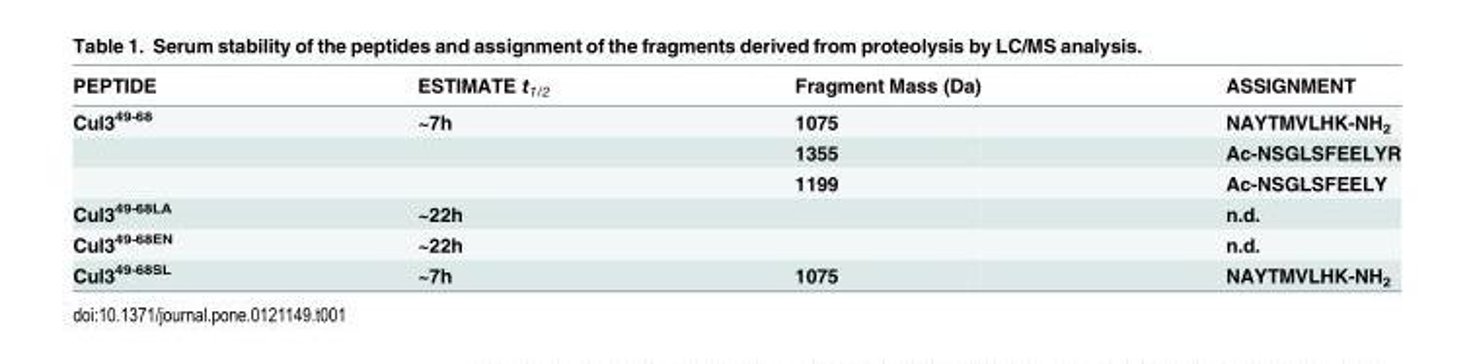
<table><thead><tr><td>PEPTIDE</td><td>ESTIMATE t<sub>1/2</sub></td><td>Fragment Mass (Da)</td><td>ASSIGNMENT</td></tr></thead><tbody><tr><td rowspan="3">Cul3<sup>49-68</sup></td><td>~7h</td><td>1075</td><td>NAYTMVLHK-NH<sub>2</sub></td></tr><tr><td></td><td>1355</td><td>Ac-NSGLSFEELYR</td></tr><tr><td></td><td>1199</td><td>Ac-NSGLSFEELY</td></tr><tr><td>Cul3<sup>49-68LA</sup></td><td>~22h</td><td></td><td>n.d.</td></tr><tr><td>Cul3<sup>49-68EN</sup></td><td>~22h</td><td></td><td>n.d.</td></tr><tr><td>Cul3<sup>49-68SL</sup></td><td>~7h</td><td>1075</td><td>NAYTMVLHK-NH<sub>2</sub></td></tr></tbody></table>